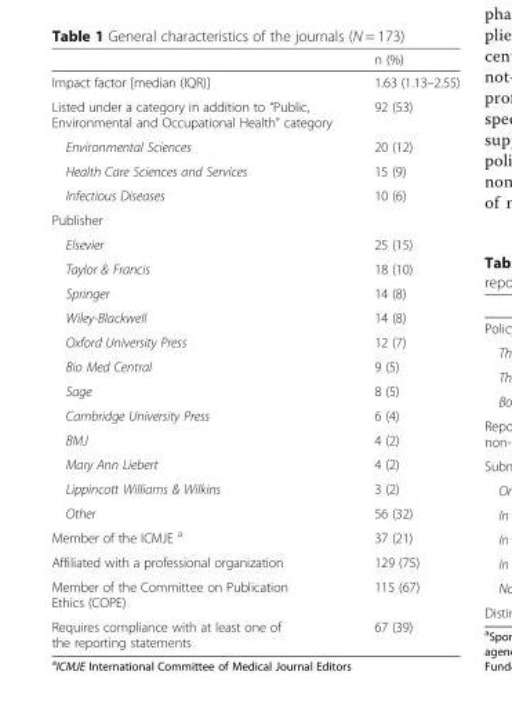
<table><thead><tr><td></td><td>n (%)</td></tr></thead><tbody><tr><td>Impact factor [median (IQR)]</td><td>1.63 (1.13–2.55)</td></tr><tr><td>Listed under a category in addition to “Public, Environmental and Occupational Health” category</td><td>92 (53)</td></tr><tr><td>Environmental Sciences</td><td>20 (12)</td></tr><tr><td>Health Care Sciences and Services</td><td>15 (9)</td></tr><tr><td>Infectious Diseases</td><td>10 (6)</td></tr><tr><td colspan="2">Publisher</td></tr><tr><td>Elsevier</td><td>25 (15)</td></tr><tr><td>Taylor &amp; Francis</td><td>18 (10)</td></tr><tr><td>Springer</td><td>14 (8)</td></tr><tr><td>Wiley-Blackwell</td><td>14 (8)</td></tr><tr><td>Oxford University Press</td><td>12 (7)</td></tr><tr><td>Bio Med Central</td><td>9 (5)</td></tr><tr><td>Sage</td><td>8 (5)</td></tr><tr><td>Cambridge University Press</td><td>6 (4)</td></tr><tr><td>BMJ</td><td>4 (2)</td></tr><tr><td>Mary Ann Liebert</td><td>4 (2)</td></tr><tr><td>Lippincott Williams &amp; Wilkins</td><td>3 (2)</td></tr><tr><td>Other</td><td>56 (32)</td></tr><tr><td>Member of the ICMJE <sup>a</sup></td><td>37 (21)</td></tr><tr><td>Affiliated with a professional organization</td><td>129 (75)</td></tr><tr><td>Member of the Committee on Publication Ethics (COPE)</td><td>115 (67)</td></tr><tr><td>Requires compliance with at least one of the reporting statements</td><td>67 (39)</td></tr></tbody></table>